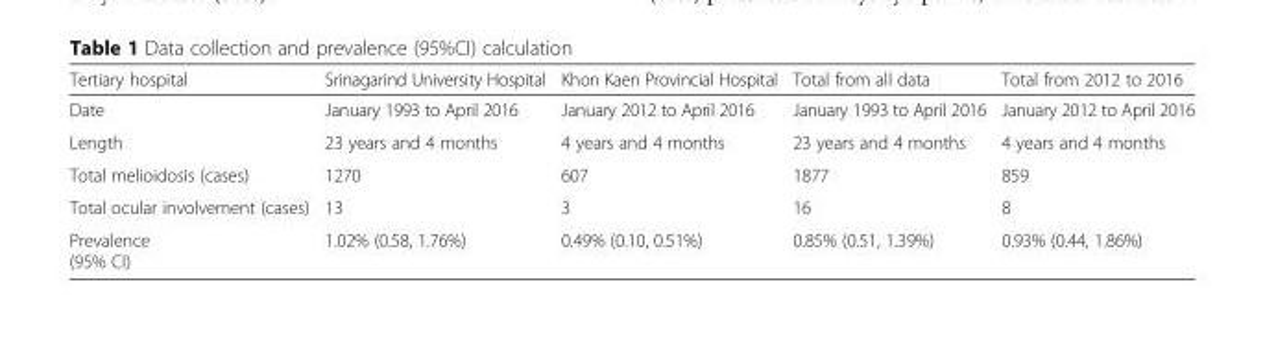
<table><thead><tr><td>Tertiary hospital</td><td>Srinagarind University Hospital</td><td>Khon Kaen Provincial Hospital</td><td>Total from all data</td><td>Total from 2012 to 2016</td></tr></thead><tbody><tr><td>Date</td><td>January 1993 to April 2016</td><td>January 2012 to April 2016</td><td>January 1993 to April 2016</td><td>January 2012 to April 2016</td></tr><tr><td>Length</td><td>23 years and 4 months</td><td>4 years and 4 months</td><td>23 years and 4 months</td><td>4 years and 4 months</td></tr><tr><td>Total melioidosis (cases)</td><td>1270</td><td>607</td><td>1877</td><td>859</td></tr><tr><td>Total ocular involvement (cases)</td><td>13</td><td>3</td><td>16</td><td>8</td></tr><tr><td>Prevalence (95% CI)</td><td>1.02% (0.58, 1.76%)</td><td>0.49% (0.10, 0.51%)</td><td>0.85% (0.51, 1.39%)</td><td>0.93% (0.44, 1.86%)</td></tr></tbody></table>